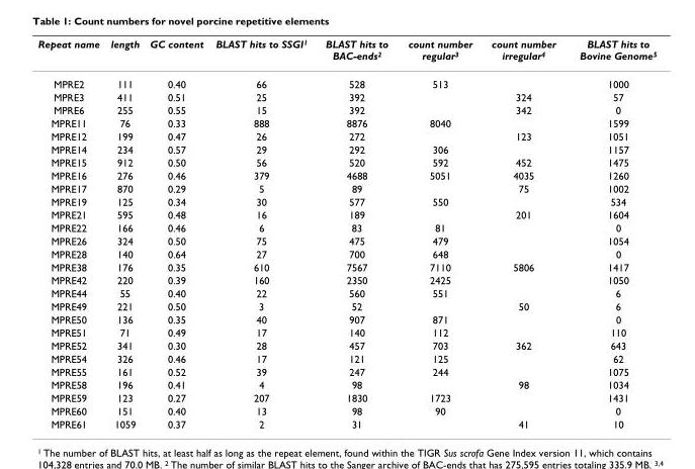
<table><thead><tr><td>Repeat name</td><td>length</td><td>GC content</td><td>BLAST hits to SSGI1</td><td>BLAST hits to BAC-ends2</td><td>count number regular3</td><td>count number irregular4</td><td>BLAST hits to Bovine Genome5</td></tr></thead><tbody><tr><td>MPRE2</td><td>111</td><td>0.40</td><td>66</td><td>528</td><td>513</td><td></td><td>1000</td></tr><tr><td>MPRE3</td><td>411</td><td>0.51</td><td>25</td><td>392</td><td></td><td>324</td><td>57</td></tr><tr><td>MPRE6</td><td>255</td><td>0.55</td><td>15</td><td>392</td><td></td><td>342</td><td>0</td></tr><tr><td>MPRE11</td><td>76</td><td>0.33</td><td>888</td><td>8876</td><td>8040</td><td></td><td>1599</td></tr><tr><td>MPRE12</td><td>199</td><td>0.47</td><td>26</td><td>272</td><td></td><td>123</td><td>1051</td></tr><tr><td>MPRE14</td><td>234</td><td>0.57</td><td>29</td><td>292</td><td>306</td><td></td><td>1157</td></tr><tr><td>MPRE15</td><td>912</td><td>0.50</td><td>56</td><td>520</td><td>592</td><td>452</td><td>1475</td></tr><tr><td>MPRE16</td><td>276</td><td>0.46</td><td>379</td><td>4688</td><td>5051</td><td>4035</td><td>1260</td></tr><tr><td>MPRE17</td><td>870</td><td>0.29</td><td>5</td><td>89</td><td></td><td>75</td><td>1002</td></tr><tr><td>MPRE19</td><td>125</td><td>0.34</td><td>30</td><td>577</td><td>550</td><td></td><td>534</td></tr><tr><td>MPRE21</td><td>595</td><td>0.48</td><td>16</td><td>189</td><td></td><td>201</td><td>1604</td></tr><tr><td>MPRE22</td><td>166</td><td>0.46</td><td>6</td><td>83</td><td>81</td><td></td><td>0</td></tr><tr><td>MPRE26</td><td>324</td><td>0.50</td><td>75</td><td>475</td><td>479</td><td></td><td>1054</td></tr><tr><td>MPRE28</td><td>140</td><td>0.64</td><td>27</td><td>700</td><td>648</td><td></td><td>0</td></tr><tr><td>MPRE38</td><td>176</td><td>0.35</td><td>610</td><td>7567</td><td>7110</td><td>5806</td><td>1417</td></tr><tr><td>MPRE42</td><td>220</td><td>0.39</td><td>160</td><td>2350</td><td>2425</td><td></td><td>1050</td></tr><tr><td>MPRE44</td><td>55</td><td>0.40</td><td>22</td><td>560</td><td>551</td><td></td><td>6</td></tr><tr><td>MPRE49</td><td>221</td><td>0.50</td><td>3</td><td>52</td><td></td><td>50</td><td>6</td></tr><tr><td>MPRE50</td><td>136</td><td>0.35</td><td>40</td><td>907</td><td>871</td><td></td><td>0</td></tr><tr><td>MPRE51</td><td>71</td><td>0.49</td><td>17</td><td>140</td><td>112</td><td></td><td>110</td></tr><tr><td>MPRE52</td><td>341</td><td>0.30</td><td>28</td><td>457</td><td>703</td><td>362</td><td>643</td></tr><tr><td>MPRE54</td><td>326</td><td>0.46</td><td>17</td><td>121</td><td>125</td><td></td><td>62</td></tr><tr><td>MPRE55</td><td>161</td><td>0.52</td><td>39</td><td>247</td><td>244</td><td></td><td>1075</td></tr><tr><td>MPRE58</td><td>196</td><td>0.41</td><td>4</td><td>98</td><td></td><td>98</td><td>1034</td></tr><tr><td>MPRE59</td><td>123</td><td>0.27</td><td>207</td><td>1830</td><td>1723</td><td></td><td>1431</td></tr><tr><td>MPRE60</td><td>151</td><td>0.40</td><td>13</td><td>98</td><td>90</td><td></td><td>0</td></tr><tr><td>MPRE61</td><td>1059</td><td>0.37</td><td>2</td><td>31</td><td></td><td>41</td><td>10</td></tr></tbody></table>